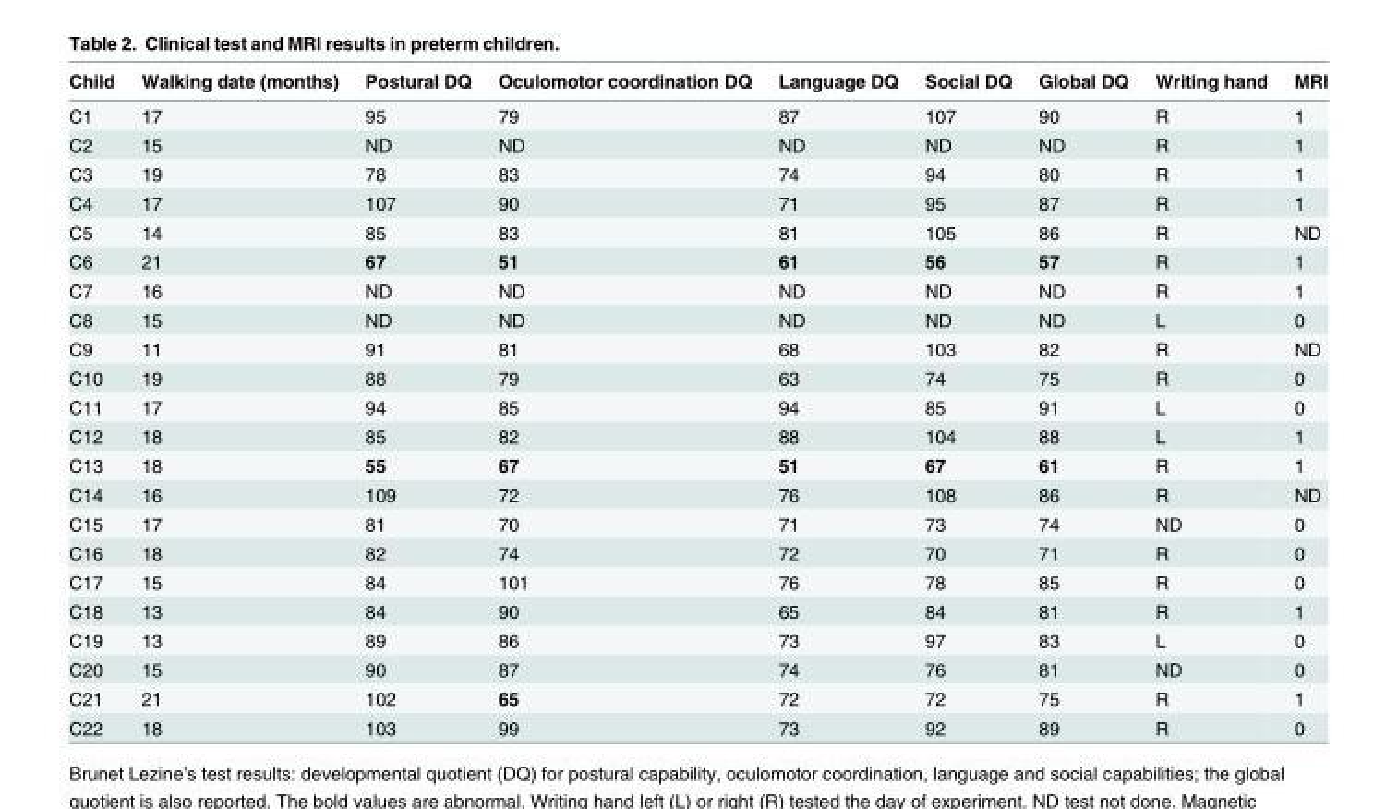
<table><thead><tr><td>Child</td><td>Walking date (months)</td><td>Postural DQ</td><td>Oculomotor coordination DQ</td><td>Language DQ</td><td>Social DQ</td><td>Global DQ</td><td>Writing hand</td><td>MRI</td></tr></thead><tbody><tr><td>C1</td><td>17</td><td>95</td><td>79</td><td>87</td><td>107</td><td>90</td><td>R</td><td>1</td></tr><tr><td>C2</td><td>15</td><td>ND</td><td>ND</td><td>ND</td><td>ND</td><td>ND</td><td>R</td><td>1</td></tr><tr><td>C3</td><td>19</td><td>78</td><td>83</td><td>74</td><td>94</td><td>80</td><td>R</td><td>1</td></tr><tr><td>C4</td><td>17</td><td>107</td><td>90</td><td>71</td><td>95</td><td>87</td><td>R</td><td>1</td></tr><tr><td>C5</td><td>14</td><td>85</td><td>83</td><td>81</td><td>105</td><td>86</td><td>R</td><td>ND</td></tr><tr><td>C6</td><td>21</td><td>67</td><td>51</td><td>61</td><td>56</td><td>57</td><td>R</td><td>1</td></tr><tr><td>C7</td><td>16</td><td>ND</td><td>ND</td><td>ND</td><td>ND</td><td>ND</td><td>R</td><td>1</td></tr><tr><td>C8</td><td>15</td><td>ND</td><td>ND</td><td>ND</td><td>ND</td><td>ND</td><td>L</td><td>0</td></tr><tr><td>C9</td><td>11</td><td>91</td><td>81</td><td>68</td><td>103</td><td>82</td><td>R</td><td>ND</td></tr><tr><td>C10</td><td>19</td><td>88</td><td>79</td><td>63</td><td>74</td><td>75</td><td>R</td><td>0</td></tr><tr><td>C11</td><td>17</td><td>94</td><td>85</td><td>94</td><td>85</td><td>91</td><td>L</td><td>0</td></tr><tr><td>C12</td><td>18</td><td>85</td><td>82</td><td>88</td><td>104</td><td>88</td><td>L</td><td>1</td></tr><tr><td>C13</td><td>18</td><td>55</td><td>67</td><td>51</td><td>67</td><td>61</td><td>R</td><td>1</td></tr><tr><td>C14</td><td>16</td><td>109</td><td>72</td><td>76</td><td>108</td><td>86</td><td>R</td><td>ND</td></tr><tr><td>C15</td><td>17</td><td>81</td><td>70</td><td>71</td><td>73</td><td>74</td><td>ND</td><td>0</td></tr><tr><td>C16</td><td>18</td><td>82</td><td>74</td><td>72</td><td>70</td><td>71</td><td>R</td><td>0</td></tr><tr><td>C17</td><td>15</td><td>84</td><td>101</td><td>76</td><td>78</td><td>85</td><td>R</td><td>0</td></tr><tr><td>C18</td><td>13</td><td>84</td><td>90</td><td>65</td><td>84</td><td>81</td><td>R</td><td>1</td></tr><tr><td>C19</td><td>13</td><td>89</td><td>86</td><td>73</td><td>97</td><td>83</td><td>L</td><td>0</td></tr><tr><td>C20</td><td>15</td><td>90</td><td>87</td><td>74</td><td>76</td><td>81</td><td>ND</td><td>0</td></tr><tr><td>C21</td><td>21</td><td>102</td><td>65</td><td>72</td><td>72</td><td>75</td><td>R</td><td>1</td></tr><tr><td>C22</td><td>18</td><td>103</td><td>99</td><td>73</td><td>92</td><td>89</td><td>R</td><td>0</td></tr></tbody></table>